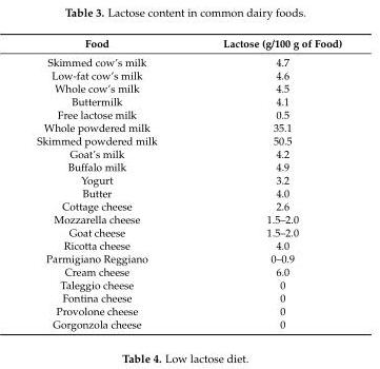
<table><thead><tr><td>Food</td><td>Lactose (g/100 g of Food)</td></tr></thead><tbody><tr><td>Skimmed cow’s milk</td><td>4.7</td></tr><tr><td>Low-fat cow’s milk</td><td>4.6</td></tr><tr><td>Whole cow’s milk</td><td>4.5</td></tr><tr><td>Buttermilk</td><td>4.1</td></tr><tr><td>Free lactose milk</td><td>0.5</td></tr><tr><td>Whole powdered milk</td><td>35.1</td></tr><tr><td>Skimmed powdered milk</td><td>50.5</td></tr><tr><td>Goat’s milk</td><td>4.2</td></tr><tr><td>Buffalo milk</td><td>4.9</td></tr><tr><td>Yogurt</td><td>3.2</td></tr><tr><td>Butter</td><td>4.0</td></tr><tr><td>Cottage cheese</td><td>2.6</td></tr><tr><td>Mozzarella cheese</td><td>1.5–2.0</td></tr><tr><td>Goat cheese</td><td>1.5–2.0</td></tr><tr><td>Ricotta cheese</td><td>4.0</td></tr><tr><td>Parmigiano Reggiano</td><td>0–0.9</td></tr><tr><td>Cream cheese</td><td>6.0</td></tr><tr><td>Taleggio cheese</td><td>0</td></tr><tr><td>Fontina cheese</td><td>0</td></tr><tr><td>Provolone cheese</td><td>0</td></tr><tr><td>Gorgonzola cheese</td><td>0</td></tr></tbody></table>